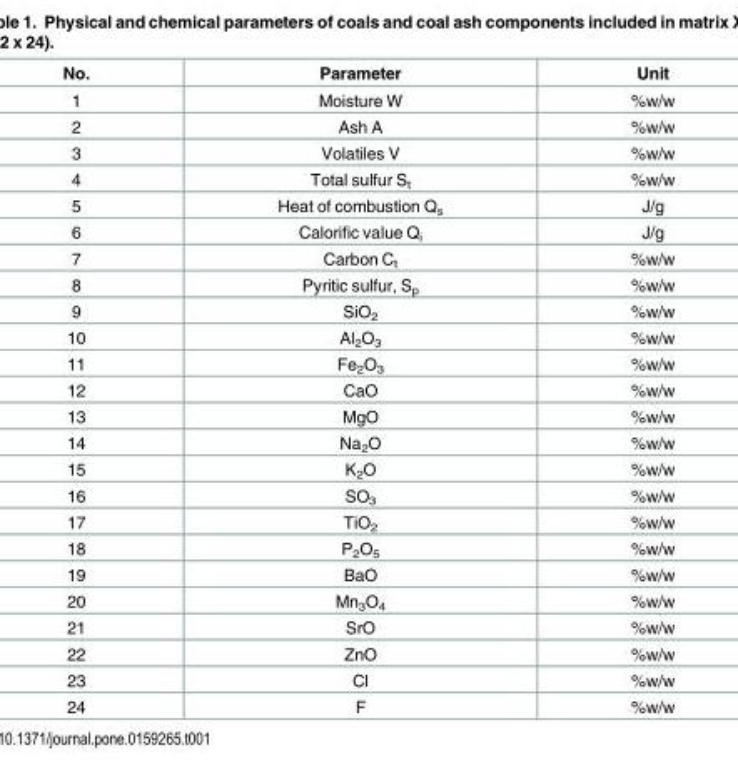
<table><thead><tr><td>No.</td><td>Parameter</td><td>Unit</td></tr></thead><tbody><tr><td>1</td><td>Moisture W</td><td>%w/w</td></tr><tr><td>2</td><td>Ash A</td><td>%w/w</td></tr><tr><td>3</td><td>Volatiles V</td><td>%w/w</td></tr><tr><td>4</td><td>Total sulfur S<sub>t</sub></td><td>%w/w</td></tr><tr><td>5</td><td>Heat of combustion Q<sub>s</sub></td><td>J/g</td></tr><tr><td>6</td><td>Calorific value Q<sub>i</sub></td><td>J/g</td></tr><tr><td>7</td><td>Carbon C<sub>t</sub></td><td>%w/w</td></tr><tr><td>8</td><td>Pyritic sulfur, S<sub>p</sub></td><td>%w/w</td></tr><tr><td>9</td><td>SiO<sub>2</sub></td><td>%w/w</td></tr><tr><td>10</td><td>Al<sub>2</sub>O<sub>3</sub></td><td>%w/w</td></tr><tr><td>11</td><td>Fe<sub>2</sub>O<sub>3</sub></td><td>%w/w</td></tr><tr><td>12</td><td>CaO</td><td>%w/w</td></tr><tr><td>13</td><td>MgO</td><td>%w/w</td></tr><tr><td>14</td><td>Na<sub>2</sub>O</td><td>%w/w</td></tr><tr><td>15</td><td>K<sub>2</sub>O</td><td>%w/w</td></tr><tr><td>16</td><td>SO<sub>3</sub></td><td>%w/w</td></tr><tr><td>17</td><td>TiO<sub>2</sub></td><td>%w/w</td></tr><tr><td>18</td><td>P<sub>2</sub>O<sub>5</sub></td><td>%w/w</td></tr><tr><td>19</td><td>BaO</td><td>%w/w</td></tr><tr><td>20</td><td>Mn<sub>3</sub>O<sub>4</sub></td><td>%w/w</td></tr><tr><td>21</td><td>SrO</td><td>%w/w</td></tr><tr><td>22</td><td>ZnO</td><td>%w/w</td></tr><tr><td>23</td><td>Cl</td><td>%w/w</td></tr><tr><td>24</td><td>F</td><td>%w/w</td></tr></tbody></table>